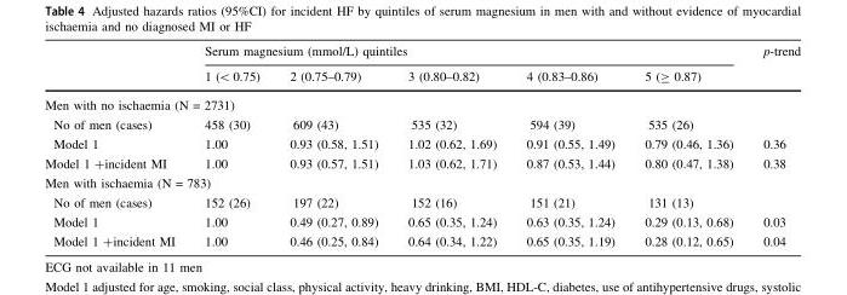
<table><thead><tr><td rowspan="2"></td><td colspan="5">Serum magnesium (mmol/L) quintiles</td><td rowspan="2">p-trend</td></tr><tr><td>1 (&lt; 0.75)</td><td>2 (0.75–0.79)</td><td>3 (0.80–0.82)</td><td>4 (0.83–0.86)</td><td>5 (≥ 0.87)</td></tr></thead><tbody><tr><td colspan="7">Men with no ischaemia (N = 2731)</td></tr><tr><td>No of men (cases)</td><td>458 (30)</td><td>609 (43)</td><td>535 (32)</td><td>594 (39)</td><td>535 (26)</td><td></td></tr><tr><td>Model 1</td><td>1.00</td><td>0.93 (0.58, 1.51)</td><td>1.02 (0.62, 1.69)</td><td>0.91 (0.55, 1.49)</td><td>0.79 (0.46, 1.36)</td><td>0.36</td></tr><tr><td>Model 1 +incident MI</td><td>1.00</td><td>0.93 (0.57, 1.51)</td><td>1.03 (0.62, 1.71)</td><td>0.87 (0.53, 1.44)</td><td>0.80 (0.47, 1.38)</td><td>0.38</td></tr><tr><td colspan="7">Men with ischaemia (N = 783)</td></tr><tr><td>No of men (cases)</td><td>152 (26)</td><td>197 (22)</td><td>152 (16)</td><td>151 (21)</td><td>131 (13)</td><td></td></tr><tr><td>Model 1</td><td>1.00</td><td>0.49 (0.27, 0.89)</td><td>0.65 (0.35, 1.24)</td><td>0.63 (0.35, 1.24)</td><td>0.29 (0.13, 0.68)</td><td>0.03</td></tr><tr><td>Model 1 +incident MI</td><td>1.00</td><td>0.46 (0.25, 0.84)</td><td>0.64 (0.34, 1.22)</td><td>0.65 (0.35, 1.19)</td><td>0.28 (0.12, 0.65)</td><td>0.04</td></tr></tbody></table>